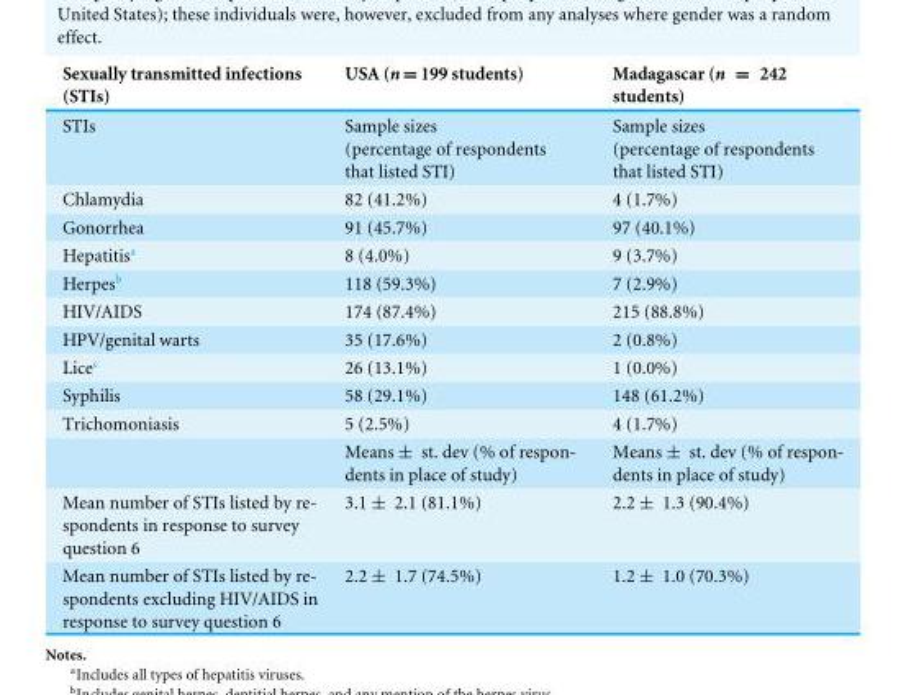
<table><thead><tr><td>Sexually transmitted infections (STIs)</td><td>USA (n = 199 students)</td><td>Madagascar (n = 242 students)</td></tr></thead><tbody><tr><td>STIs</td><td>Sample sizes (percentage of respondents that listed STI)</td><td>Sample sizes (percentage of respondents that listed STI)</td></tr><tr><td>Chlamydia</td><td>82 (41.2%)</td><td>4 (1.7%)</td></tr><tr><td>Gonorrhea</td><td>91 (45.7%)</td><td>97 (40.1%)</td></tr><tr><td>Hepatitis<sup>a</sup></td><td>8 (4.0%)</td><td>9 (3.7%)</td></tr><tr><td>Herpes<sup>b</sup></td><td>118 (59.3%)</td><td>7 (2.9%)</td></tr><tr><td>HIV/AIDS</td><td>174 (87.4%)</td><td>215 (88.8%)</td></tr><tr><td>HPV/genital warts</td><td>35 (17.6%)</td><td>2 (0.8%)</td></tr><tr><td>Lice<sup>c</sup></td><td>26 (13.1%)</td><td>1 (0.0%)</td></tr><tr><td>Syphilis</td><td>58 (29.1%)</td><td>148 (61.2%)</td></tr><tr><td rowspan="2">Trichomoniasis</td><td>5 (2.5%)</td><td>4 (1.7%)</td></tr><tr><td>Means ± st. dev (% of respon- dents in place of study)</td><td>Means ± st. dev (% of respon- dents in place of study)</td></tr><tr><td>Mean number of STIs listed by re- spondents in response to survey question 6</td><td>3.1 ± 2.1 (81.1%)</td><td>2.2 ± 1.3 (90.4%)</td></tr><tr><td>Mean number of STIs listed by re- spondents excluding HIV/AIDS in response to survey question 6</td><td>2.2 ± 1.7 (74.5%)</td><td>1.2 ± 1.0 (70.3%)</td></tr></tbody></table>